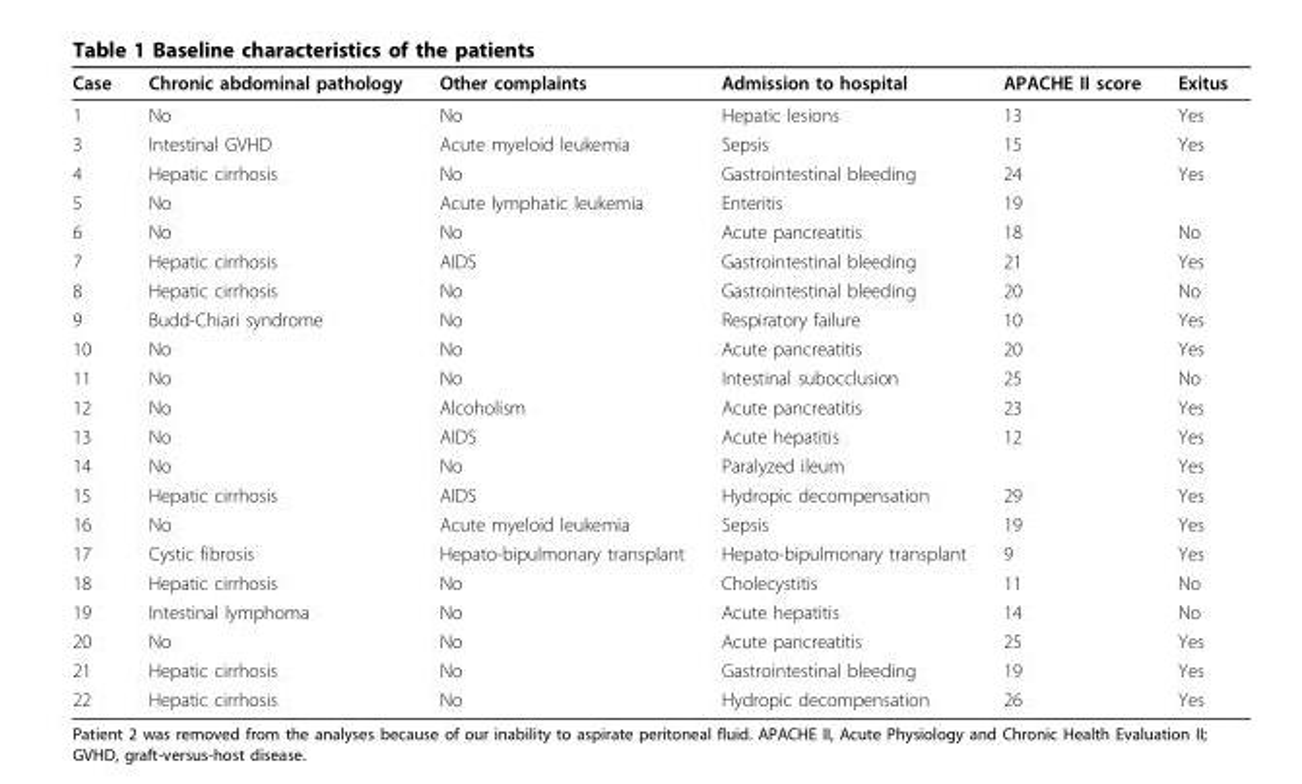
<table><thead><tr><td>Case</td><td>Chronic abdominal pathology</td><td>Other complaints</td><td>Admission to hospital</td><td>APACHE II score</td><td>Exitus</td></tr></thead><tbody><tr><td>1</td><td>No</td><td>No</td><td>Hepatic lesions</td><td>13</td><td>Yes</td></tr><tr><td>3</td><td>Intestinal GVHD</td><td>Acute myeloid leukemia</td><td>Sepsis</td><td>15</td><td>Yes</td></tr><tr><td>4</td><td>Hepatic cirrhosis</td><td>No</td><td>Gastrointestinal bleeding</td><td>24</td><td>Yes</td></tr><tr><td>5</td><td>No</td><td>Acute lymphatic leukemia</td><td>Enteritis</td><td>19</td><td></td></tr><tr><td>6</td><td>No</td><td>No</td><td>Acute pancreatitis</td><td>18</td><td>No</td></tr><tr><td>7</td><td>Hepatic cirrhosis</td><td>AIDS</td><td>Gastrointestinal bleeding</td><td>21</td><td>Yes</td></tr><tr><td>8</td><td>Hepatic cirrhosis</td><td>No</td><td>Gastrointestinal bleeding</td><td>20</td><td>No</td></tr><tr><td>9</td><td>Budd-Chiari syndrome</td><td>No</td><td>Respiratory failure</td><td>10</td><td>Yes</td></tr><tr><td>10</td><td>No</td><td>No</td><td>Acute pancreatitis</td><td>20</td><td>Yes</td></tr><tr><td>11</td><td>No</td><td>No</td><td>Intestinal subocclusion</td><td>25</td><td>No</td></tr><tr><td>12</td><td>No</td><td>Alcoholism</td><td>Acute pancreatitis</td><td>23</td><td>Yes</td></tr><tr><td>13</td><td>No</td><td>AIDS</td><td>Acute hepatitis</td><td>12</td><td>Yes</td></tr><tr><td>14</td><td>No</td><td>No</td><td>Paralyzed ileum</td><td></td><td>Yes</td></tr><tr><td>15</td><td>Hepatic cirrhosis</td><td>AIDS</td><td>Hydropic decompensation</td><td>29</td><td>Yes</td></tr><tr><td>16</td><td>No</td><td>Acute myeloid leukemia</td><td>Sepsis</td><td>19</td><td>Yes</td></tr><tr><td>17</td><td>Cystic fibrosis</td><td>Hepato-bipulmonary transplant</td><td>Hepato-bipulmonary transplant</td><td>9</td><td>Yes</td></tr><tr><td>18</td><td>Hepatic cirrhosis</td><td>No</td><td>Cholecystitis</td><td>11</td><td>No</td></tr><tr><td>19</td><td>Intestinal lymphoma</td><td>No</td><td>Acute hepatitis</td><td>14</td><td>No</td></tr><tr><td>20</td><td>No</td><td>No</td><td>Acute pancreatitis</td><td>25</td><td>Yes</td></tr><tr><td>21</td><td>Hepatic cirrhosis</td><td>No</td><td>Gastrointestinal bleeding</td><td>19</td><td>Yes</td></tr><tr><td>22</td><td>Hepatic cirrhosis</td><td>No</td><td>Hydropic decompensation</td><td>26</td><td>Yes</td></tr></tbody></table>